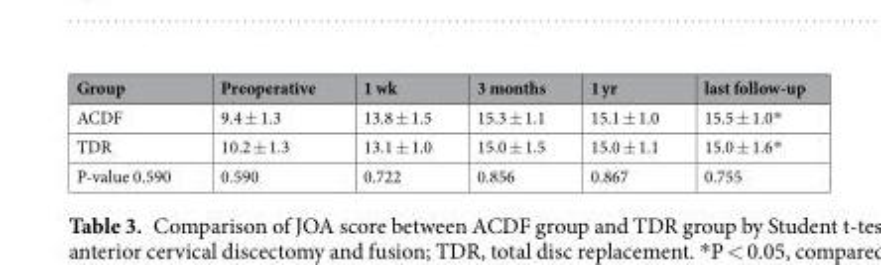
<table><thead><tr><td>Group</td><td>Preoperative</td><td>1 wk</td><td>3 months</td><td>1 yr</td><td>last follow-up</td></tr></thead><tbody><tr><td>ACDF</td><td>9.4 ± 1.3</td><td>13.8 ± 1.5</td><td>15.3 ± 1.1</td><td>15.1 ± 1.0</td><td>15.5 ± 1.0*</td></tr><tr><td>TDR</td><td>10.2 ± 1.3</td><td>13.1 ± 1.0</td><td>15.0 ± 1.5</td><td>15.0 ± 1.1</td><td>15.0 ± 1.6*</td></tr><tr><td>P-value 0.590</td><td>0.590</td><td>0.722</td><td>0.856</td><td>0.867</td><td>0.755</td></tr></tbody></table>